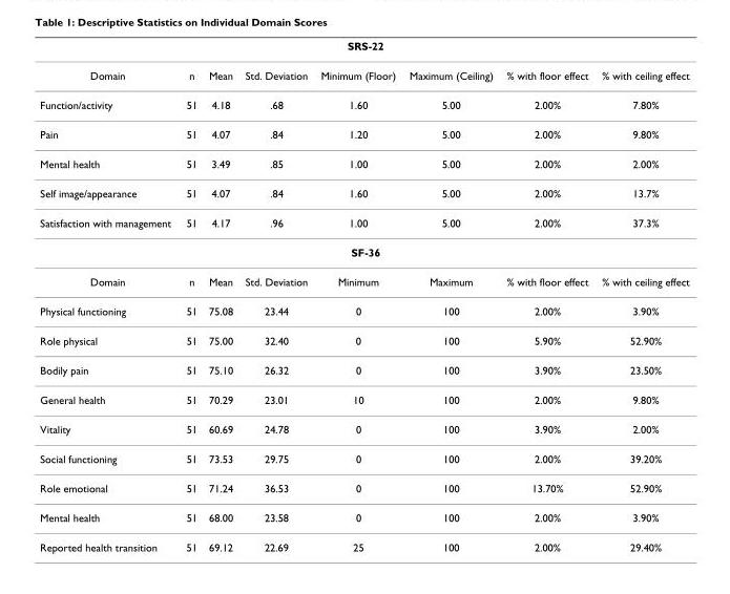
<table><thead><tr><td colspan="8">SRS-22</td></tr><tr><td>Domain</td><td>n</td><td>Mean</td><td>Std. Deviation</td><td>Minimum (Floor)</td><td>Maximum (Ceiling)</td><td>% with floor effect</td><td>% with ceiling effect</td></tr></thead><tbody><tr><td>Function/activity</td><td>51</td><td>4.18</td><td>.68</td><td>1.60</td><td>5.00</td><td>2.00%</td><td>7.80%</td></tr><tr><td>Pain</td><td>51</td><td>4.07</td><td>.84</td><td>1.20</td><td>5.00</td><td>2.00%</td><td>9.80%</td></tr><tr><td>Mental health</td><td>51</td><td>3.49</td><td>.85</td><td>1.00</td><td>5.00</td><td>2.00%</td><td>2.00%</td></tr><tr><td>Self image/appearance</td><td>51</td><td>4.07</td><td>.84</td><td>1.60</td><td>5.00</td><td>2.00%</td><td>13.7%</td></tr><tr><td>Satisfaction with management</td><td>51</td><td>4.17</td><td>.96</td><td>1.00</td><td>5.00</td><td>2.00%</td><td>37.3%</td></tr><tr><td colspan="8">SF-36</td></tr><tr><td>Domain</td><td>n</td><td>Mean</td><td>Std. Deviation</td><td>Minimum</td><td>Maximum</td><td>% with floor effect</td><td>% with ceiling effect</td></tr><tr><td>Physical functioning</td><td>51</td><td>75.08</td><td>23.44</td><td>0</td><td>100</td><td>2.00%</td><td>3.90%</td></tr><tr><td>Role physical</td><td>51</td><td>75.00</td><td>32.40</td><td>0</td><td>100</td><td>5.90%</td><td>52.90%</td></tr><tr><td>Bodily pain</td><td>51</td><td>75.10</td><td>26.32</td><td>0</td><td>100</td><td>3.90%</td><td>23.50%</td></tr><tr><td>General health</td><td>51</td><td>70.29</td><td>23.01</td><td>10</td><td>100</td><td>2.00%</td><td>9.80%</td></tr><tr><td>Vitality</td><td>51</td><td>60.69</td><td>24.78</td><td>0</td><td>100</td><td>3.90%</td><td>2.00%</td></tr><tr><td>Social functioning</td><td>51</td><td>73.53</td><td>29.75</td><td>0</td><td>100</td><td>2.00%</td><td>39.20%</td></tr><tr><td>Role emotional</td><td>51</td><td>71.24</td><td>36.53</td><td>0</td><td>100</td><td>13.70%</td><td>52.90%</td></tr><tr><td>Mental health</td><td>51</td><td>68.00</td><td>23.58</td><td>0</td><td>100</td><td>2.00%</td><td>3.90%</td></tr><tr><td>Reported health transition</td><td>51</td><td>69.12</td><td>22.69</td><td>25</td><td>100</td><td>2.00%</td><td>29.40%</td></tr></tbody></table>